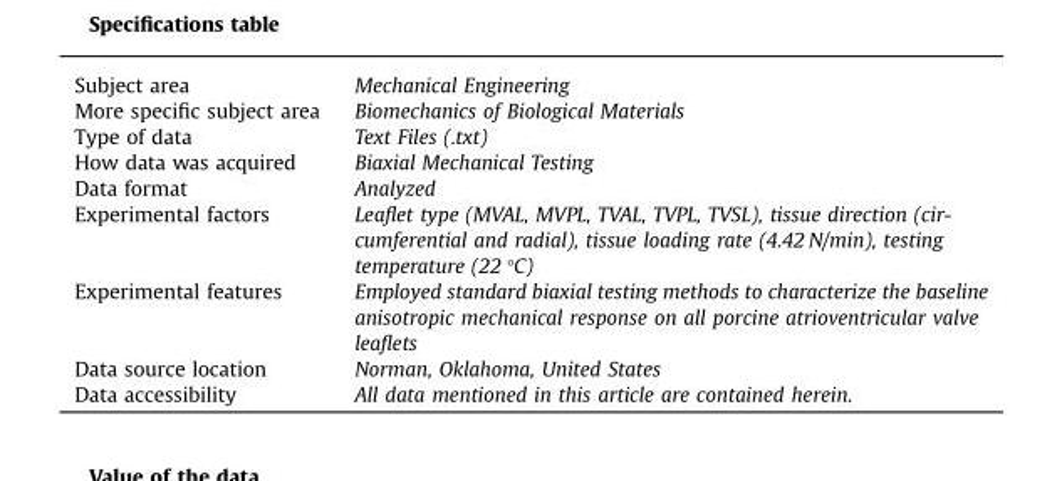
<table><tbody><tr><td>Subject area</td><td>Mechanical Engineering</td></tr><tr><td>More specific subject area</td><td>Biomechanics of Biological Materials</td></tr><tr><td>Type of data</td><td>Text Files (.txt)</td></tr><tr><td>How data was acquired</td><td>Biaxial Mechanical Testing</td></tr><tr><td>Data format</td><td>Analyzed</td></tr><tr><td>Experimental factors</td><td>Leaflet type (MVAL, MVPL, TVAL, TVPL, TVSL), tissue direction (cir- cumferential and radial), tissue loading rate (4.42 N/min), testing temperature (22 °C)</td></tr><tr><td>Experimental features</td><td>Employed standard biaxial testing methods to characterize the baseline anisotropic mechanical response on all porcine atrioventricular valve leaflets</td></tr><tr><td>Data source location</td><td>Norman, Oklahoma, United States</td></tr><tr><td>Data accessibility</td><td>All data mentioned in this article are contained herein.</td></tr></tbody></table>